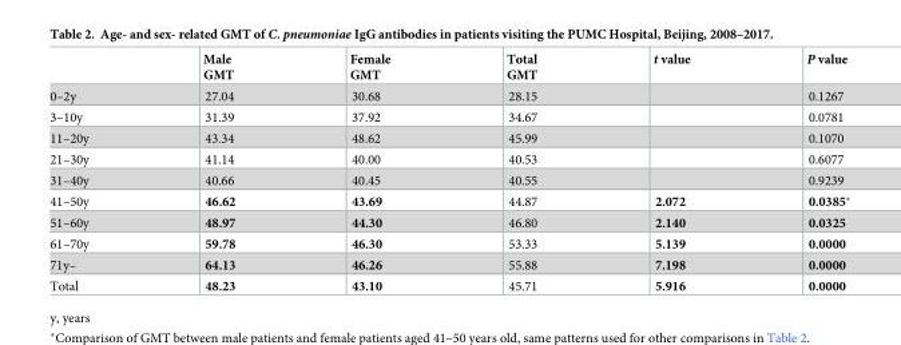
<table><thead><tr><td></td><td>Male GMT</td><td>Female GMT</td><td>Total GMT</td><td>t value</td><td>P value</td></tr></thead><tbody><tr><td>0–2y</td><td>27.04</td><td>30.68</td><td>28.15</td><td></td><td>0.1267</td></tr><tr><td>3–10y</td><td>31.39</td><td>37.92</td><td>34.67</td><td></td><td>0.0781</td></tr><tr><td>11–20y</td><td>43.34</td><td>48.62</td><td>45.99</td><td></td><td>0.1070</td></tr><tr><td>21–30y</td><td>41.14</td><td>40.00</td><td>40.53</td><td></td><td>0.6077</td></tr><tr><td>31–40y</td><td>40.66</td><td>40.45</td><td>40.55</td><td></td><td>0.9239</td></tr><tr><td>41–50y</td><td>46.62</td><td>43.69</td><td>44.87</td><td>2.072</td><td>0.0385*</td></tr><tr><td>51–60y</td><td>48.97</td><td>44.30</td><td>46.80</td><td>2.140</td><td>0.0325</td></tr><tr><td>61–70y</td><td>59.78</td><td>46.30</td><td>53.33</td><td>5.139</td><td>0.0000</td></tr><tr><td>71y–</td><td>64.13</td><td>46.26</td><td>55.88</td><td>7.198</td><td>0.0000</td></tr><tr><td>Total</td><td>48.23</td><td>43.10</td><td>45.71</td><td>5.916</td><td>0.0000</td></tr></tbody></table>